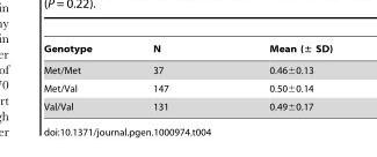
<table><thead><tr><td>Genotype</td><td>N</td><td>Mean (± SD)</td></tr></thead><tbody><tr><td>Met/Met</td><td>37</td><td>0.46±0.13</td></tr><tr><td>Met/Val</td><td>147</td><td>0.50±0.14</td></tr><tr><td>Val/Val</td><td>131</td><td>0.49±0.17</td></tr></tbody></table>